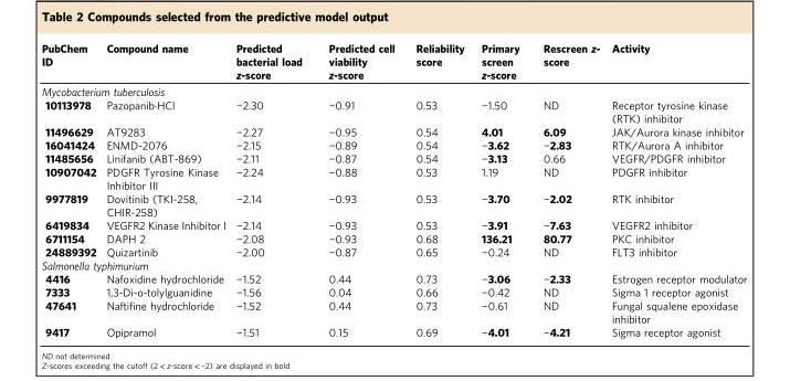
<table><thead><tr><td>PubChem ID</td><td>Compound name</td><td>Predicted bacterial load z-score</td><td>Predicted cell viability z-score</td><td>Reliability score</td><td>Primary screen z-score</td><td>Rescreen z- score</td><td>Activity</td></tr></thead><tbody><tr><td colspan="8">Mycobacterium tuberculosis</td></tr><tr><td>10113978</td><td>Pazopanib·HCl</td><td>−2.30</td><td>−0.91</td><td>0.53</td><td>−1.50</td><td>ND</td><td>Receptor tyrosine kinase (RTK) inhibitor</td></tr><tr><td>11496629</td><td>AT9283</td><td>−2.27</td><td>−0.95</td><td>0.54</td><td>4.01</td><td>6.09</td><td>JAK/Aurora kinase inhibitor</td></tr><tr><td>16041424</td><td>ENMD-2076</td><td>−2.15</td><td>−0.89</td><td>0.54</td><td>−3.62</td><td>−2.83</td><td>RTK/Aurora A inhibitor</td></tr><tr><td>11485656</td><td>Linifanib (ABT-869)</td><td>−2.11</td><td>−0.87</td><td>0.54</td><td>−3.13</td><td>0.66</td><td>VEGFR/PDGFR inhibitor</td></tr><tr><td>10907042</td><td>PDGFR Tyrosine Kinase Inhibitor III</td><td>−2.24</td><td>−0.88</td><td>0.53</td><td>1.19</td><td>ND</td><td>PDGFR inhibitor</td></tr><tr><td>9977819</td><td>Dovitinib (TKI-258, CHIR-258)</td><td>−2.14</td><td>−0.93</td><td>0.53</td><td>−3.70</td><td>−2.02</td><td>RTK inhibitor</td></tr><tr><td>6419834</td><td>VEGFR2 Kinase Inhibitor I</td><td>−2.14</td><td>−0.93</td><td>0.53</td><td>−3.91</td><td>−7.63</td><td>VEGFR2 inhibitor</td></tr><tr><td>6711154</td><td>DAPH 2</td><td>−2.08</td><td>−0.93</td><td>0.68</td><td>136.21</td><td>80.77</td><td>PKC inhibitor</td></tr><tr><td>24889392</td><td>Quizartinib</td><td>−2.00</td><td>−0.87</td><td>0.65</td><td>−0.24</td><td>ND</td><td>FLT3 inhibitor</td></tr><tr><td colspan="8">Salmonella typhimurium</td></tr><tr><td>4416</td><td>Nafoxidine hydrochloride</td><td>−1.52</td><td>0.44</td><td>0.73</td><td>−3.06</td><td>−2.33</td><td>Estrogen receptor modulator</td></tr><tr><td>7333</td><td>1,3-Di-o-tolylguanidine</td><td>−1.56</td><td>0.04</td><td>0.66</td><td>−0.42</td><td>ND</td><td>Sigma 1 receptor agonist</td></tr><tr><td>47641</td><td>Naftifine hydrochloride</td><td>−1.52</td><td>0.44</td><td>0.73</td><td>−0.61</td><td>ND</td><td>Fungal squalene epoxidase inhibitor</td></tr><tr><td>9417</td><td>Opipramol</td><td>−1.51</td><td>0.15</td><td>0.69</td><td>−4.01</td><td>−4.21</td><td>Sigma receptor agonist</td></tr></tbody></table>